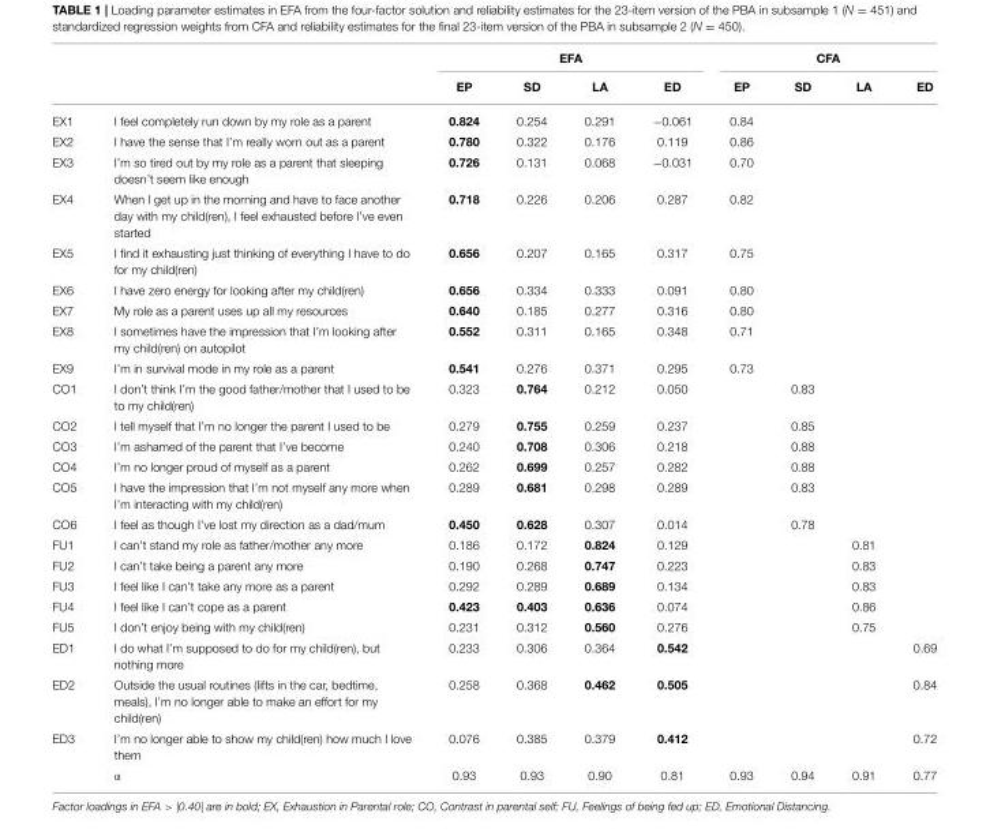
<table><thead><tr><td rowspan="2"></td><td rowspan="2"></td><td colspan="4">EFA</td><td colspan="4">CFA</td></tr><tr><td>EP</td><td>SD</td><td>LA</td><td>ED</td><td>EP</td><td>SD</td><td>LA</td><td>ED</td></tr></thead><tbody><tr><td>EX1</td><td>I feel completely run down by my role as a parent</td><td>0.824</td><td>0.254</td><td>0.291</td><td>−0.061</td><td>0.84</td><td></td><td></td><td></td></tr><tr><td>EX2</td><td>I have the sense that I’m really worn out as a parent</td><td>0.780</td><td>0.322</td><td>0.176</td><td>0.119</td><td>0.86</td><td></td><td></td><td></td></tr><tr><td>EX3</td><td>I’m so tired out by my role as a parent that sleeping doesn’t seem like enough</td><td>0.726</td><td>0.131</td><td>0.068</td><td>−0.031</td><td>0.70</td><td></td><td></td><td></td></tr><tr><td>EX4</td><td>When I get up in the morning and have to face another day with my child(ren), I feel exhausted before I’ve even started</td><td>0.718</td><td>0.226</td><td>0.206</td><td>0.287</td><td>0.82</td><td></td><td></td><td></td></tr><tr><td>EX5</td><td>I find it exhausting just thinking of everything I have to do for my child(ren)</td><td>0.656</td><td>0.207</td><td>0.165</td><td>0.317</td><td>0.75</td><td></td><td></td><td></td></tr><tr><td>EX6</td><td>I have zero energy for looking after my child(ren)</td><td>0.656</td><td>0.334</td><td>0.333</td><td>0.091</td><td>0.80</td><td></td><td></td><td></td></tr><tr><td>EX7</td><td>My role as a parent uses up all my resources</td><td>0.640</td><td>0.185</td><td>0.277</td><td>0.316</td><td>0.80</td><td></td><td></td><td></td></tr><tr><td>EX8</td><td>I sometimes have the impression that I’m looking after my child(ren) on autopilot</td><td>0.552</td><td>0.311</td><td>0.165</td><td>0.348</td><td>0.71</td><td></td><td></td><td></td></tr><tr><td>EX9</td><td>I’m in survival mode in my role as a parent</td><td>0.541</td><td>0.276</td><td>0.371</td><td>0.295</td><td>0.73</td><td></td><td></td><td></td></tr><tr><td>CO1</td><td>I don’t think I’m the good father/mother that I used to be to my child(ren)</td><td>0.323</td><td>0.764</td><td>0.212</td><td>0.050</td><td></td><td>0.83</td><td></td><td></td></tr><tr><td>CO2</td><td>I tell myself that I’m no longer the parent I used to be</td><td>0.279</td><td>0.755</td><td>0.259</td><td>0.237</td><td></td><td>0.85</td><td></td><td></td></tr><tr><td>CO3</td><td>I’m ashamed of the parent that I’ve become</td><td>0.240</td><td>0.708</td><td>0.306</td><td>0.218</td><td></td><td>0.88</td><td></td><td></td></tr><tr><td>CO4</td><td>I’m no longer proud of myself as a parent</td><td>0.262</td><td>0.699</td><td>0.257</td><td>0.282</td><td></td><td>0.88</td><td></td><td></td></tr><tr><td>CO5</td><td>I have the impression that I’m not myself any more when I’m interacting with my child(ren)</td><td>0.289</td><td>0.681</td><td>0.298</td><td>0.289</td><td></td><td>0.83</td><td></td><td></td></tr><tr><td>CO6</td><td>I feel as though I’ve lost my direction as a dad/mum</td><td>0.450</td><td>0.628</td><td>0.307</td><td>0.014</td><td></td><td>0.78</td><td></td><td></td></tr><tr><td>FU1</td><td>I can’t stand my role as father/mother any more</td><td>0.186</td><td>0.172</td><td>0.824</td><td>0.129</td><td></td><td></td><td>0.81</td><td></td></tr><tr><td>FU2</td><td>I can’t take being a parent any more</td><td>0.190</td><td>0.268</td><td>0.747</td><td>0.223</td><td></td><td></td><td>0.83</td><td></td></tr><tr><td>FU3</td><td>I feel like I can’t take any more as a parent</td><td>0.292</td><td>0.289</td><td>0.689</td><td>0.134</td><td></td><td></td><td>0.83</td><td></td></tr><tr><td>FU4</td><td>I feel like I can’t cope as a parent</td><td>0.423</td><td>0.403</td><td>0.636</td><td>0.074</td><td></td><td></td><td>0.86</td><td></td></tr><tr><td>FU5</td><td>I don’t enjoy being with my child(ren)</td><td>0.231</td><td>0.312</td><td>0.560</td><td>0.276</td><td></td><td></td><td>0.75</td><td></td></tr><tr><td>ED1</td><td>I do what I’m supposed to do for my child(ren), but nothing more</td><td>0.233</td><td>0.306</td><td>0.364</td><td>0.542</td><td></td><td></td><td></td><td>0.69</td></tr><tr><td>ED2</td><td>Outside the usual routines (lifts in the car, bedtime, meals), I’m no longer able to make an effort for my child(ren)</td><td>0.258</td><td>0.368</td><td>0.462</td><td>0.505</td><td></td><td></td><td></td><td>0.84</td></tr><tr><td rowspan="2">ED3</td><td>I’m no longer able to show my child(ren) how much I love them</td><td>0.076</td><td>0.385</td><td>0.379</td><td>0.412</td><td></td><td></td><td></td><td>0.72</td></tr><tr><td>α</td><td>0.93</td><td>0.93</td><td>0.90</td><td>0.81</td><td>0.93</td><td>0.94</td><td>0.91</td><td>0.77</td></tr></tbody></table>